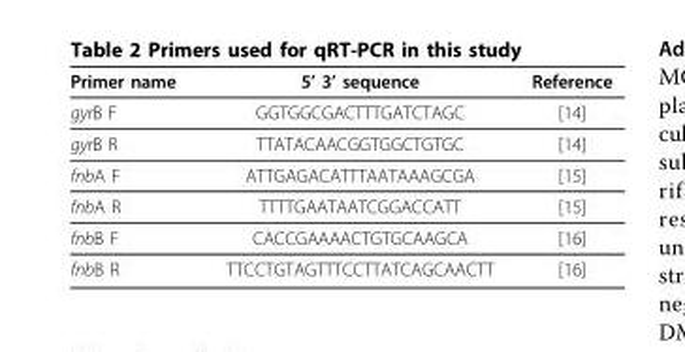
<table><thead><tr><td>Primer name</td><td>5’ 3’ sequence</td><td>Reference</td></tr></thead><tbody><tr><td>gyrB F</td><td>GGTGGCGACTTTGATCTAGC</td><td>[14]</td></tr><tr><td>gyrB R</td><td>TTATACAACGGTGGCTGTGC</td><td>[14]</td></tr><tr><td>fnbA F</td><td>ATTGAGACATTTAATAAAGCGA</td><td>[15]</td></tr><tr><td>fnbA R</td><td>TTTTGAATAATCGGACCATT</td><td>[15]</td></tr><tr><td>fnbB F</td><td>CACCGAAAACTGTGCAAGCA</td><td>[16]</td></tr><tr><td>fnbB R</td><td>TTCCTGTAGTTTCCTTATCAGCAACTT</td><td>[16]</td></tr></tbody></table>